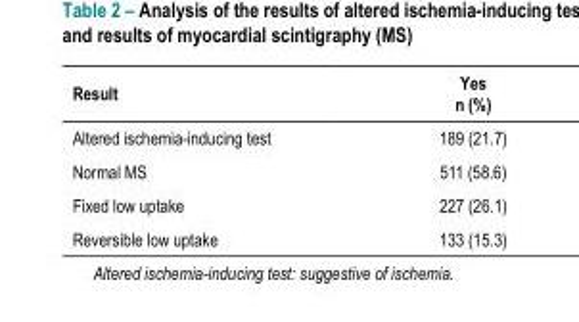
<table><thead><tr><td>Result</td><td>Yes n (%)</td></tr></thead><tbody><tr><td>Altered ischemia-inducing test</td><td>189 (21.7)</td></tr><tr><td>Normal MS</td><td>511 (58.6)</td></tr><tr><td>Fixed low uptake</td><td>227 (26.1)</td></tr><tr><td>Reversible low uptake</td><td>133 (15.3)</td></tr></tbody></table>